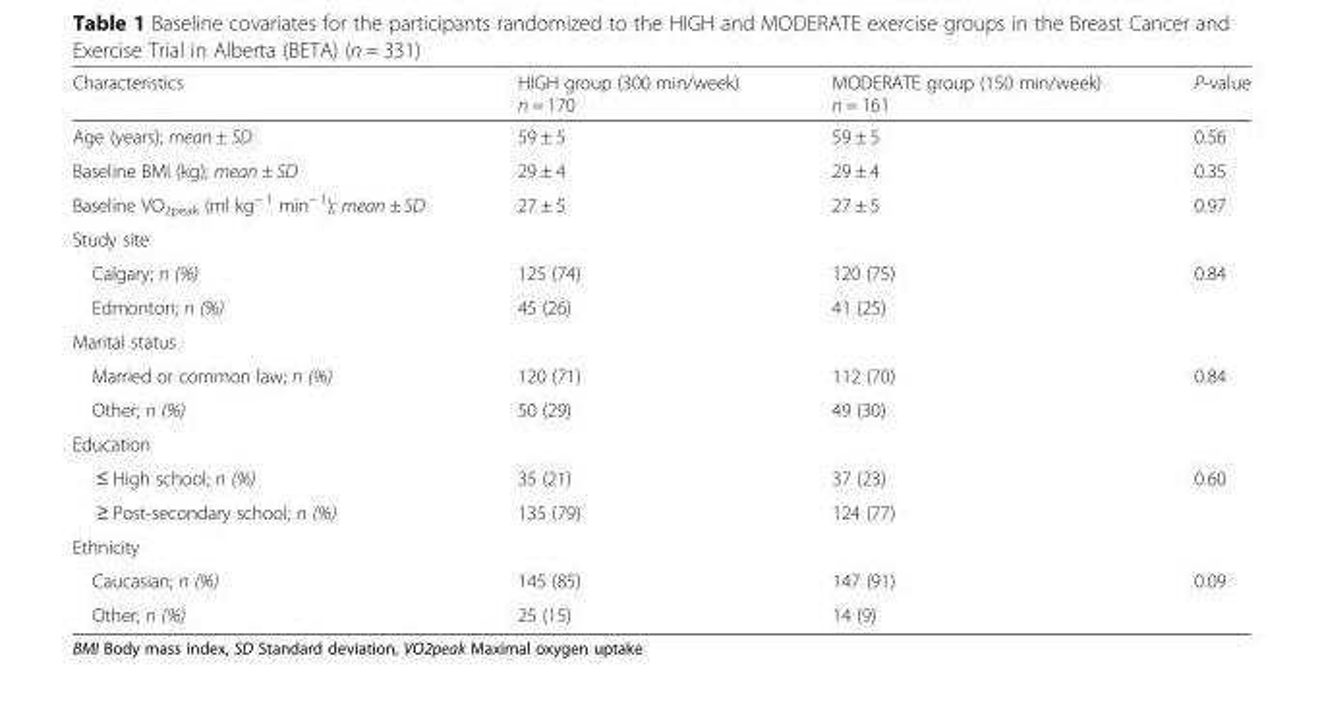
<table><thead><tr><td>Characteristics</td><td>HIGH group (300 min/week) n = 170</td><td>MODERATE group (150 min/week) n = 161</td><td>P-value</td></tr></thead><tbody><tr><td>Age (years); mean ± SD</td><td>59 ± 5</td><td>59 ± 5</td><td>0.56</td></tr><tr><td>Baseline BMI (kg); mean ± SD</td><td>29 ± 4</td><td>29 ± 4</td><td>0.35</td></tr><tr><td>Baseline VO<sub>2peak</sub> (ml kg<sup>− 1</sup> min<sup>− 1</sup>); mean ± SD</td><td>27 ± 5</td><td>27 ± 5</td><td>0.97</td></tr><tr><td colspan="4">Study site</td></tr><tr><td>Calgary; n (%)</td><td>125 (74)</td><td>120 (75)</td><td>0.84</td></tr><tr><td>Edmonton; n (%)</td><td>45 (26)</td><td>41 (25)</td><td></td></tr><tr><td colspan="4">Marital status</td></tr><tr><td>Married or common law; n (%)</td><td>120 (71)</td><td>112 (70)</td><td>0.84</td></tr><tr><td>Other; n (%)</td><td>50 (29)</td><td>49 (30)</td><td></td></tr><tr><td colspan="4">Education</td></tr><tr><td>≤ High school; n (%)</td><td>35 (21)</td><td>37 (23)</td><td>0.60</td></tr><tr><td>≥ Post-secondary school; n (%)</td><td>135 (79)</td><td>124 (77)</td><td></td></tr><tr><td colspan="4">Ethnicity</td></tr><tr><td>Caucasian; n (%)</td><td>145 (85)</td><td>147 (91)</td><td>0.09</td></tr><tr><td>Other; n (%)</td><td>25 (15)</td><td>14 (9)</td><td></td></tr></tbody></table>